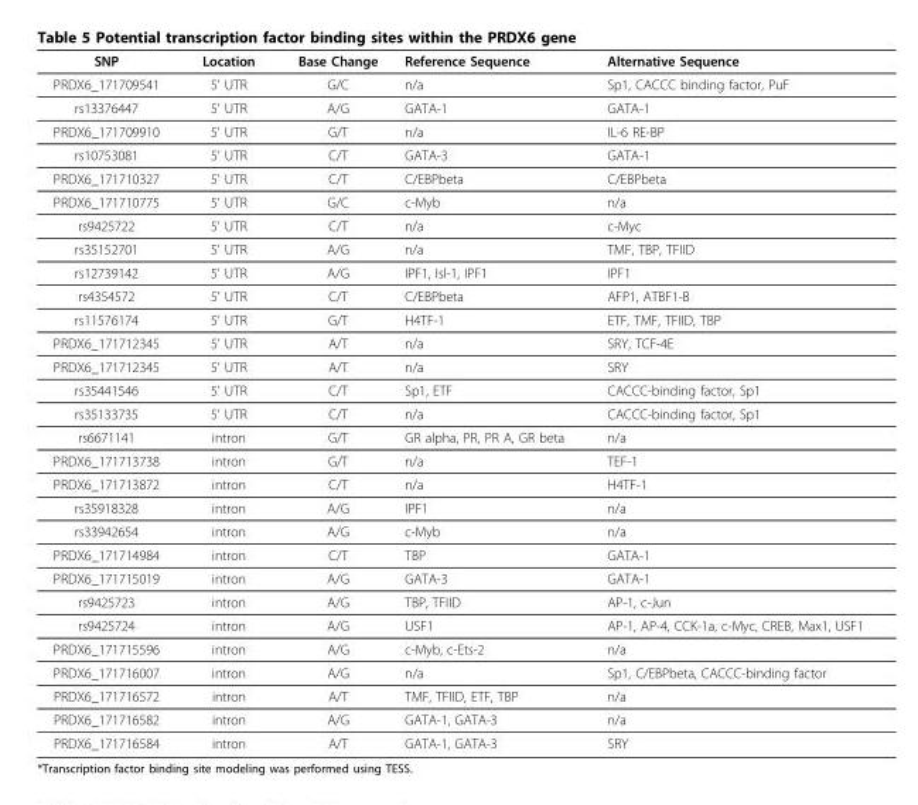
<table><thead><tr><td>SNP</td><td>Location</td><td>Base Change</td><td>Reference Sequence</td><td>Alternative Sequence</td></tr></thead><tbody><tr><td>PRDX6_171709541</td><td>5’ UTR</td><td>G/C</td><td>n/a</td><td>Sp1, CACCC binding factor, PuF</td></tr><tr><td>rs13376447</td><td>5’ UTR</td><td>A/G</td><td>GATA-1</td><td>GATA-1</td></tr><tr><td>PRDX6_171709910</td><td>5’ UTR</td><td>G/T</td><td>n/a</td><td>IL-6 RE-BP</td></tr><tr><td>rs10753081</td><td>5’ UTR</td><td>C/T</td><td>GATA-3</td><td>GATA-1</td></tr><tr><td>PRDX6_171710327</td><td>5’ UTR</td><td>C/T</td><td>C/EBPbeta</td><td>C/EBPbeta</td></tr><tr><td>PRDX6_171710775</td><td>5’ UTR</td><td>G/C</td><td>c-Myb</td><td>n/a</td></tr><tr><td>rs9425722</td><td>5’ UTR</td><td>C/T</td><td>n/a</td><td>c-Myc</td></tr><tr><td>rs35152701</td><td>5’ UTR</td><td>A/G</td><td>n/a</td><td>TMF, TBP, TFIID</td></tr><tr><td>rs12739142</td><td>5’ UTR</td><td>A/G</td><td>IPF1, Isl-1, IPF1</td><td>IPF1</td></tr><tr><td>rs4354572</td><td>5’ UTR</td><td>C/T</td><td>C/EBPbeta</td><td>AFP1, ATBF1-B</td></tr><tr><td>rs11576174</td><td>5’ UTR</td><td>G/T</td><td>H4TF-1</td><td>ETF, TMF, TFIID, TBP</td></tr><tr><td>PRDX6_171712345</td><td>5’ UTR</td><td>A/T</td><td>n/a</td><td>SRY, TCF-4E</td></tr><tr><td>PRDX6_171712345</td><td>5’ UTR</td><td>A/T</td><td>n/a</td><td>SRY</td></tr><tr><td>rs35441546</td><td>5’ UTR</td><td>C/T</td><td>Sp1, ETF</td><td>CACCC-binding factor, Sp1</td></tr><tr><td>rs35133735</td><td>5’ UTR</td><td>C/T</td><td>n/a</td><td>CACCC-binding factor, Sp1</td></tr><tr><td>rs6671141</td><td>intron</td><td>G/T</td><td>GR alpha, PR, PR A, GR beta</td><td>n/a</td></tr><tr><td>PRDX6_171713738</td><td>intron</td><td>G/T</td><td>n/a</td><td>TEF-1</td></tr><tr><td>PRDX6_171713872</td><td>intron</td><td>C/T</td><td>n/a</td><td>H4TF-1</td></tr><tr><td>rs35918328</td><td>intron</td><td>A/G</td><td>IPF1</td><td>n/a</td></tr><tr><td>rs33942654</td><td>intron</td><td>A/G</td><td>c-Myb</td><td>n/a</td></tr><tr><td>PRDX6_171714984</td><td>intron</td><td>C/T</td><td>TBP</td><td>GATA-1</td></tr><tr><td>PRDX6_171715019</td><td>intron</td><td>A/G</td><td>GATA-3</td><td>GATA-1</td></tr><tr><td>rs9425723</td><td>intron</td><td>A/G</td><td>TBP, TFIID</td><td>AP-1, c-Jun</td></tr><tr><td>rs9425724</td><td>intron</td><td>A/G</td><td>USF1</td><td>AP-1, AP-4, CCK-1a, c-Myc, CREB, Max1, USF1</td></tr><tr><td>PRDX6_171715596</td><td>intron</td><td>A/G</td><td>c-Myb, c-Ets-2</td><td>n/a</td></tr><tr><td>PRDX6_171716007</td><td>intron</td><td>A/G</td><td>n/a</td><td>Sp1, C/EBPbeta, CACCC-binding factor</td></tr><tr><td>PRDX6_171716572</td><td>intron</td><td>A/T</td><td>TMF, TFIID, ETF, TBP</td><td>n/a</td></tr><tr><td>PRDX6_171716582</td><td>intron</td><td>A/G</td><td>GATA-1, GATA-3</td><td>n/a</td></tr><tr><td>PRDX6_171716584</td><td>intron</td><td>A/T</td><td>GATA-1, GATA-3</td><td>SRY</td></tr></tbody></table>